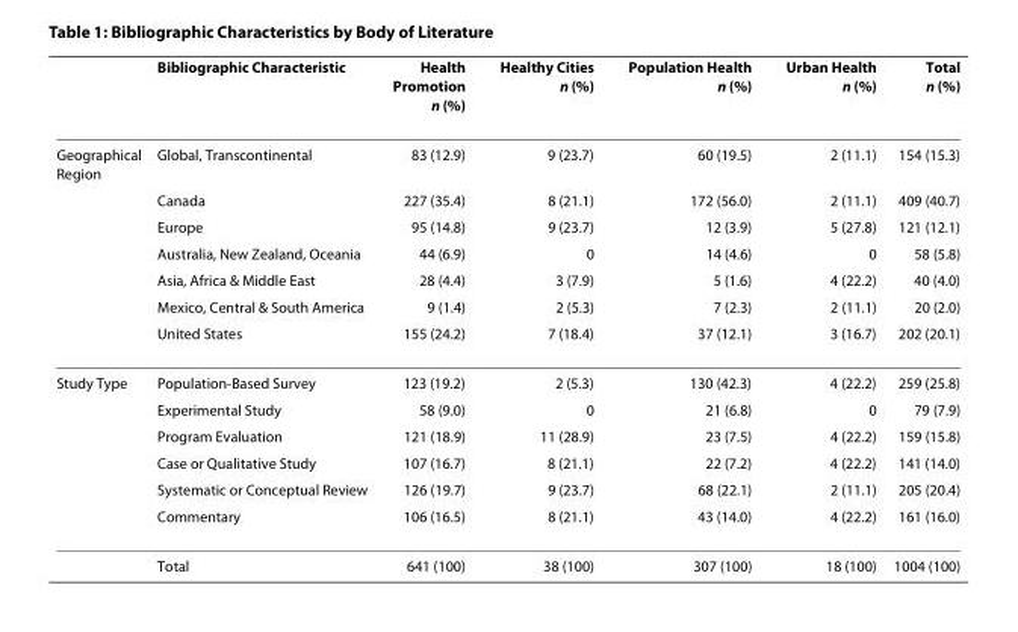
<table><thead><tr><td></td><td>Bibliographic Characteristic</td><td>Health Promotion n (%)</td><td>Healthy Cities n (%)</td><td>Population Health n (%)</td><td>Urban Health n (%)</td><td>Total n (%)</td></tr></thead><tbody><tr><td rowspan="7">Geographical Region</td><td>Global, Transcontinental</td><td>83 (12.9)</td><td>9 (23.7)</td><td>60 (19.5)</td><td>2 (11.1)</td><td>154 (15.3)</td></tr><tr><td>Canada</td><td>227 (35.4)</td><td>8 (21.1)</td><td>172 (56.0)</td><td>2 (11.1)</td><td>409 (40.7)</td></tr><tr><td>Europe</td><td>95 (14.8)</td><td>9 (23.7)</td><td>12 (3.9)</td><td>5 (27.8)</td><td>121 (12.1)</td></tr><tr><td>Australia, New Zealand, Oceania</td><td>44 (6.9)</td><td>0</td><td>14 (4.6)</td><td>0</td><td>58 (5.8)</td></tr><tr><td>Asia, Africa &amp; Middle East</td><td>28 (4.4)</td><td>3 (7.9)</td><td>5 (1.6)</td><td>4 (22.2)</td><td>40 (4.0)</td></tr><tr><td>Mexico, Central &amp; South America</td><td>9 (1.4)</td><td>2 (5.3)</td><td>7 (2.3)</td><td>2 (11.1)</td><td>20 (2.0)</td></tr><tr><td>United States</td><td>155 (24.2)</td><td>7 (18.4)</td><td>37 (12.1)</td><td>3 (16.7)</td><td>202 (20.1)</td></tr><tr><td rowspan="7">Study Type</td><td>Population-Based Survey</td><td>123 (19.2)</td><td>2 (5.3)</td><td>130 (42.3)</td><td>4 (22.2)</td><td>259 (25.8)</td></tr><tr><td>Experimental Study</td><td>58 (9.0)</td><td>0</td><td>21 (6.8)</td><td>0</td><td>79 (7.9)</td></tr><tr><td>Program Evaluation</td><td>121 (18.9)</td><td>11 (28.9)</td><td>23 (7.5)</td><td>4 (22.2)</td><td>159 (15.8)</td></tr><tr><td>Case or Qualitative Study</td><td>107 (16.7)</td><td>8 (21.1)</td><td>22 (7.2)</td><td>4 (22.2)</td><td>141 (14.0)</td></tr><tr><td>Systematic or Conceptual Review</td><td>126 (19.7)</td><td>9 (23.7)</td><td>68 (22.1)</td><td>2 (11.1)</td><td>205 (20.4)</td></tr><tr><td>Commentary</td><td>106 (16.5)</td><td>8 (21.1)</td><td>43 (14.0)</td><td>4 (22.2)</td><td>161 (16.0)</td></tr><tr><td>Total</td><td>641 (100)</td><td>38 (100)</td><td>307 (100)</td><td>18 (100)</td><td>1004 (100)</td></tr></tbody></table>